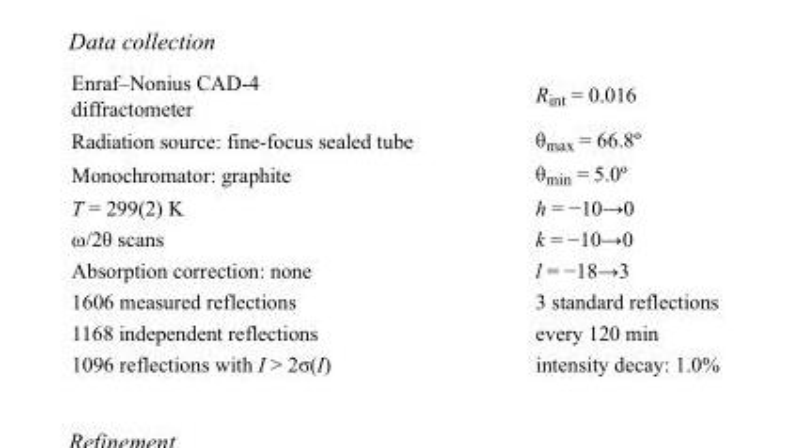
<table><tbody><tr><td>Enraf–Nonius CAD-4 diffractometer</td><td>R<sub>int</sub> = 0.016</td></tr><tr><td>Radiation source: fine-focus sealed tube</td><td>θ<sub>max</sub> = 66.8º</td></tr><tr><td>Monochromator: graphite</td><td>θ<sub>min</sub> = 5.0º</td></tr><tr><td>T = 299(2) K</td><td>h = −10→0</td></tr><tr><td>ω/2θ scans</td><td>k = −10→0</td></tr><tr><td>Absorption correction: none</td><td>l = −18→3</td></tr><tr><td>1606 measured reflections</td><td>3 standard reflections</td></tr><tr><td>1168 independent reflections</td><td>every 120 min</td></tr><tr><td>1096 reflections with I &gt; 2σ(I)</td><td>intensity decay: 1.0%</td></tr></tbody></table>